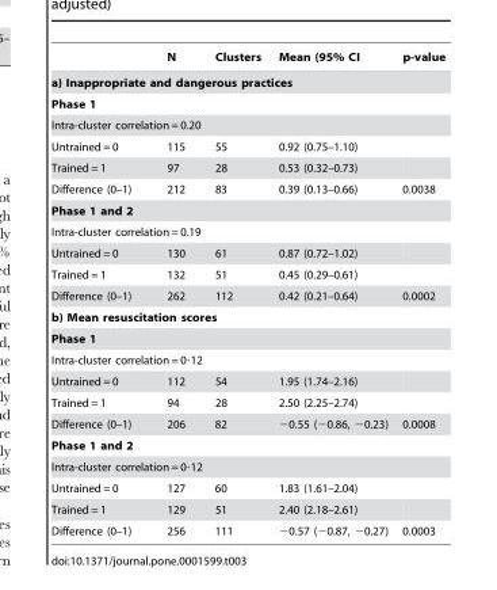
<table><thead><tr><td></td><td>N</td><td>Clusters</td><td>Mean (95% CI</td><td>p-value</td></tr></thead><tbody><tr><td colspan="5">a) Inappropriate and dangerous practices</td></tr><tr><td colspan="5">Phase 1</td></tr><tr><td colspan="5">Intra-cluster correlation = 0.20</td></tr><tr><td>Untrained = 0</td><td>115</td><td>55</td><td>0.92 (0.75–1.10)</td><td></td></tr><tr><td>Trained = 1</td><td>97</td><td>28</td><td>0.53 (0.32–0.73)</td><td></td></tr><tr><td>Difference (0–1)</td><td>212</td><td>83</td><td>0.39 (0.13–0.66)</td><td>0.0038</td></tr><tr><td colspan="5">Phase 1 and 2</td></tr><tr><td colspan="5">Intra-cluster correlation = 0.19</td></tr><tr><td>Untrained = 0</td><td>130</td><td>61</td><td>0.87 (0.72–1.02)</td><td></td></tr><tr><td>Trained = 1</td><td>132</td><td>51</td><td>0.45 (0.29–0.61)</td><td></td></tr><tr><td>Difference (0–1)</td><td>262</td><td>112</td><td>0.42 (0.21–0.64)</td><td>0.0002</td></tr><tr><td colspan="5">b) Mean resuscitation scores</td></tr><tr><td colspan="5">Phase 1</td></tr><tr><td colspan="5">Intra-cluster correlation = 0·12</td></tr><tr><td>Untrained = 0</td><td>112</td><td>54</td><td>1.95 (1.74–2.16)</td><td></td></tr><tr><td>Trained = 1</td><td>94</td><td>28</td><td>2.50 (2.25–2.74)</td><td></td></tr><tr><td>Difference (0–1)</td><td>206</td><td>82</td><td>−0.55 (−0.86, −0.23)</td><td>0.0008</td></tr><tr><td colspan="5">Phase 1 and 2</td></tr><tr><td colspan="5">Intra-cluster correlation = 0·12</td></tr><tr><td>Untrained = 0</td><td>127</td><td>60</td><td>1.83 (1.61–2.04)</td><td></td></tr><tr><td>Trained = 1</td><td>129</td><td>51</td><td>2.40 (2.18–2.61)</td><td></td></tr><tr><td>Difference (0–1)</td><td>256</td><td>111</td><td>−0.57 (−0.87, −0.27)</td><td>0.0003</td></tr></tbody></table>